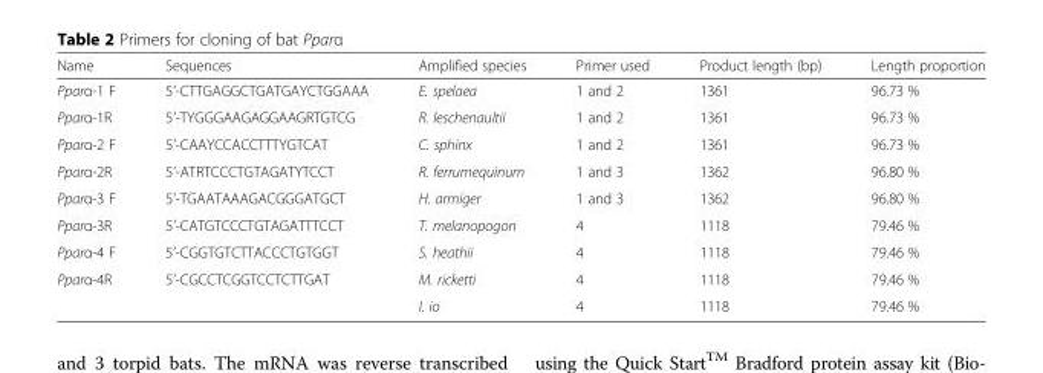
<table><thead><tr><td>Name</td><td>Sequences</td><td>Amplified species</td><td>Primer used</td><td>Product length (bp)</td><td>Length proportion</td></tr></thead><tbody><tr><td>Pparα-1 F</td><td>5’-CTTGAGGCTGATGAYCTGGAAA</td><td>E. spelaea</td><td>1 and 2</td><td>1361</td><td>96.73 %</td></tr><tr><td>Pparα-1R</td><td>5’-TYGGGAAGAGGAAGRTGTCG</td><td>R. leschenaultii</td><td>1 and 2</td><td>1361</td><td>96.73 %</td></tr><tr><td>Pparα-2 F</td><td>5’-CAAYCCACCTTTYGTCAT</td><td>C. sphinx</td><td>1 and 2</td><td>1361</td><td>96.73 %</td></tr><tr><td>Pparα-2R</td><td>5’-ATRTCCCTGTAGATYTCCT</td><td>R. ferrumequinum</td><td>1 and 3</td><td>1362</td><td>96.80 %</td></tr><tr><td>Pparα-3 F</td><td>5’-TGAATAAAGACGGGATGCT</td><td>H. armiger</td><td>1 and 3</td><td>1362</td><td>96.80 %</td></tr><tr><td>Pparα-3R</td><td>5’-CATGTCCCTGTAGATTTCCT</td><td>T. melanopogon</td><td>4</td><td>1118</td><td>79.46 %</td></tr><tr><td>Pparα-4 F</td><td>5’-CGGTGTCTTACCCTGTGGT</td><td>S. heathii</td><td>4</td><td>1118</td><td>79.46 %</td></tr><tr><td rowspan="2">Pparα-4R</td><td>5’-CGCCTCGGTCCTCTTGAT</td><td>M. ricketti</td><td>4</td><td>1118</td><td>79.46 %</td></tr><tr><td></td><td>I. io</td><td>4</td><td>1118</td><td>79.46 %</td></tr></tbody></table>